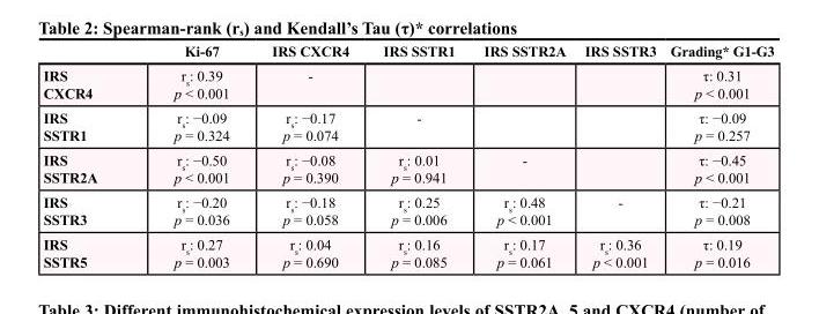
<table><thead><tr><td></td><td>Ki-67</td><td>IRS CXCR4</td><td>IRS SSTR1</td><td>IRS SSTR2A</td><td>IRS SSTR3</td><td>Grading* G1-G3</td></tr></thead><tbody><tr><td>IRS CXCR4</td><td>r<sub>s</sub>: 0.39 p &lt; 0.001</td><td>-</td><td></td><td></td><td></td><td>τ: 0.31 p &lt; 0.001</td></tr><tr><td>IRS SSTR1</td><td>r<sub>s</sub>: −0.09 p = 0.324</td><td>r<sub>s</sub>: −0.17 p = 0.074</td><td>-</td><td></td><td></td><td>τ: −0.09 p = 0.257</td></tr><tr><td>IRS SSTR2A</td><td>r<sub>s</sub>: −0.50 p &lt; 0.001</td><td>r<sub>s</sub>: −0.08 p = 0.390</td><td>r<sub>s</sub>: 0.01 p = 0.941</td><td>-</td><td></td><td>τ: −0.45 p &lt; 0.001</td></tr><tr><td>IRS SSTR3</td><td>r<sub>s</sub>: −0.20 p = 0.036</td><td>r<sub>s</sub>: −0.18 p = 0.058</td><td>r<sub>s</sub>: 0.25 p = 0.006</td><td>r<sub>s</sub>: 0.48 p &lt; 0.001</td><td>-</td><td>τ: −0.21 p = 0.008</td></tr><tr><td>IRS SSTR5</td><td>r<sub>s</sub>: 0.27 p = 0.003</td><td>r<sub>s</sub>: 0.04 p = 0.690</td><td>r<sub>s</sub>: 0.16 p = 0.085</td><td>r<sub>s</sub>: 0.17 p = 0.061</td><td>r<sub>s</sub>: 0.36 p &lt; 0.001</td><td>τ: 0.19 p = 0.016</td></tr></tbody></table>